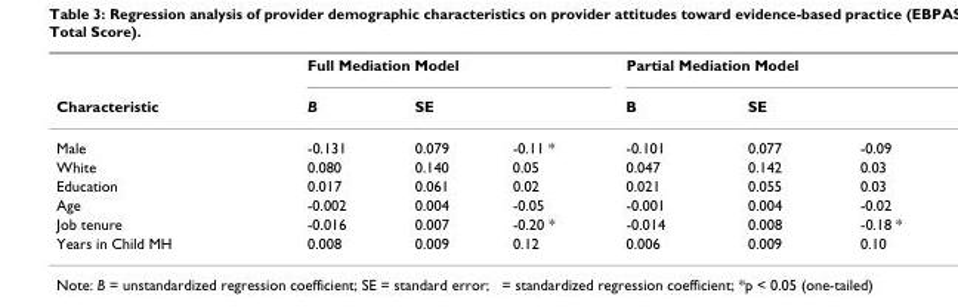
<table><thead><tr><td rowspan="2">Characteristic</td><td colspan="3">Full Mediation Model</td><td colspan="3">Partial Mediation Model</td></tr><tr><td>B</td><td>SE</td><td></td><td>B</td><td>SE</td><td></td></tr></thead><tbody><tr><td>Male</td><td>-0.131</td><td>0.079</td><td>-0.11 *</td><td>-0.101</td><td>0.077</td><td>-0.09</td></tr><tr><td>White</td><td>0.080</td><td>0.140</td><td>0.05</td><td>0.047</td><td>0.142</td><td>0.03</td></tr><tr><td>Education</td><td>0.017</td><td>0.061</td><td>0.02</td><td>0.021</td><td>0.055</td><td>0.03</td></tr><tr><td>Age</td><td>-0.002</td><td>0.004</td><td>-0.05</td><td>-0.001</td><td>0.004</td><td>-0.02</td></tr><tr><td>Job tenure</td><td>-0.016</td><td>0.007</td><td>-0.20 *</td><td>-0.014</td><td>0.008</td><td>-0.18 *</td></tr><tr><td>Years in Child MH</td><td>0.008</td><td>0.009</td><td>0.12</td><td>0.006</td><td>0.009</td><td>0.10</td></tr></tbody></table>